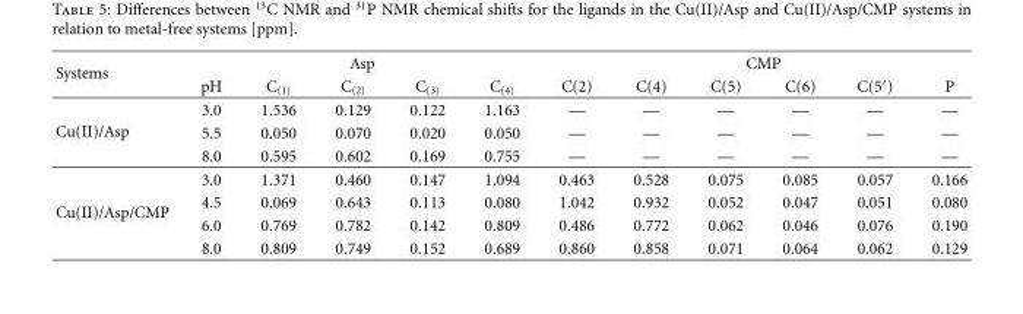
<table><thead><tr><td rowspan="2">Systems</td><td colspan="5">Asp</td><td colspan="6">CMP</td></tr><tr><td>pH</td><td>C<sub>(1)</sub></td><td>C<sub>(2)</sub></td><td>C<sub>(3)</sub></td><td>C<sub>(4)</sub></td><td>C(2)</td><td>C(4)</td><td>C(5)</td><td>C(6)</td><td>C(5′)</td><td>P</td></tr></thead><tbody><tr><td rowspan="3">Cu(II)/Asp</td><td>3.0</td><td>1.536</td><td>0.129</td><td>0.122</td><td>1.163</td><td>—</td><td>—</td><td>—</td><td>—</td><td>—</td><td>—</td></tr><tr><td>5.5</td><td>0.050</td><td>0.070</td><td>0.020</td><td>0.050</td><td>—</td><td>—</td><td>—</td><td>—</td><td>—</td><td>—</td></tr><tr><td>8.0</td><td>0.595</td><td>0.602</td><td>0.169</td><td>0.755</td><td>—</td><td>—</td><td>—</td><td>—</td><td>—</td><td>—</td></tr><tr><td rowspan="4">Cu(II)/Asp/CMP</td><td>3.0</td><td>1.371</td><td>0.460</td><td>0.147</td><td>1.094</td><td>0.463</td><td>0.528</td><td>0.075</td><td>0.085</td><td>0.057</td><td>0.166</td></tr><tr><td>4.5</td><td>0.069</td><td>0.643</td><td>0.113</td><td>0.080</td><td>1.042</td><td>0.932</td><td>0.052</td><td>0.047</td><td>0.051</td><td>0.080</td></tr><tr><td>6.0</td><td>0.769</td><td>0.782</td><td>0.142</td><td>0.809</td><td>0.486</td><td>0.772</td><td>0.062</td><td>0.046</td><td>0.076</td><td>0.190</td></tr><tr><td>8.0</td><td>0.809</td><td>0.749</td><td>0.152</td><td>0.689</td><td>0.860</td><td>0.858</td><td>0.071</td><td>0.064</td><td>0.062</td><td>0.129</td></tr></tbody></table>